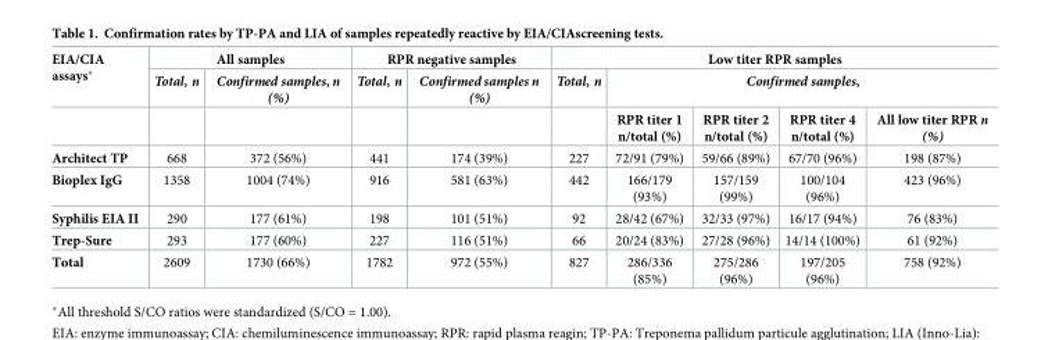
<table><thead><tr><td rowspan="3">EIA/CIA assays*</td><td colspan="2">All samples</td><td colspan="2">RPR negative samples</td><td colspan="5">Low titer RPR samples</td></tr><tr><td rowspan="2">Total, n</td><td rowspan="2">Confirmed samples, n (%)</td><td rowspan="2">Total, n</td><td rowspan="2">Confirmed samples n (%)</td><td rowspan="2">Total, n</td><td colspan="4">Confirmed samples,</td></tr><tr><td>RPR titer 1 n/total (%)</td><td>RPR titer 2 n/total (%)</td><td>RPR titer 4 n/total (%)</td><td>All low titer RPR n (%)</td></tr></thead><tbody><tr><td>Architect TP</td><td>668</td><td>372 (56%)</td><td>441</td><td>174 (39%)</td><td>227</td><td>72/91 (79%)</td><td>59/66 (89%)</td><td>67/70 (96%)</td><td>198 (87%)</td></tr><tr><td>Bioplex IgG</td><td>1358</td><td>1004 (74%)</td><td>916</td><td>581 (63%)</td><td>442</td><td>166/179 (93%)</td><td>157/159 (99%)</td><td>100/104 (96%)</td><td>423 (96%)</td></tr><tr><td>Syphilis EIA II</td><td>290</td><td>177 (61%)</td><td>198</td><td>101 (51%)</td><td>92</td><td>28/42 (67%)</td><td>32/33 (97%)</td><td>16/17 (94%)</td><td>76 (83%)</td></tr><tr><td>Trep-Sure</td><td>293</td><td>177 (60%)</td><td>227</td><td>116 (51%)</td><td>66</td><td>20/24 (83%)</td><td>27/28 (96%)</td><td>14/14 (100%)</td><td>61 (92%)</td></tr><tr><td>Total</td><td>2609</td><td>1730 (66%)</td><td>1782</td><td>972 (55%)</td><td>827</td><td>286/336 (85%)</td><td>275/286 (96%)</td><td>197/205 (96%)</td><td>758 (92%)</td></tr></tbody></table>